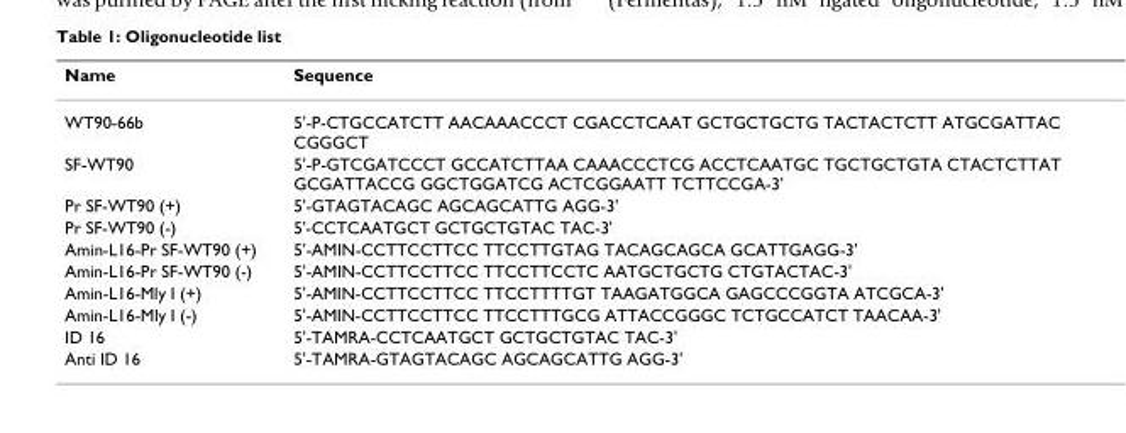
<table><thead><tr><td>Name</td><td>Sequence</td></tr></thead><tbody><tr><td>WT90-66b</td><td>5&#x27;-P-CTGCCATCTT AACAAACCCT CGACCTCAAT GCTGCTGCTG TACTACTCTT ATGCGATTAC CGGGCT</td></tr><tr><td>SF-WT90</td><td>5&#x27;-P-GTCGATCCCT GCCATCTTAA CAAACCCTCG ACCTCAATGC TGCTGCTGTA CTACTCTTAT GCGATTACCG GGCTGGATCG ACTCGGAATT TCTTCCGA-3&#x27;</td></tr><tr><td>Pr SF-WT90 (+)</td><td>5&#x27;-GTAGTACAGC AGCAGCATTG AGG-3&#x27;</td></tr><tr><td>Pr SF-WT90 (-)</td><td>5&#x27;-CCTCAATGCT GCTGCTGTAC TAC-3&#x27;</td></tr><tr><td>Amin-L16-Pr SF-WT90 (+)</td><td>5&#x27;-AMIN-CCTTCCTTCC TTCCTTGTAG TACAGCAGCA GCATTGAGG-3&#x27;</td></tr><tr><td>Amin-L16-Pr SF-WT90 (-)</td><td>5&#x27;-AMIN-CCTTCCTTCC TTCCTTCCTC AATGCTGCTG CTGTACTAC-3&#x27;</td></tr><tr><td>Amin-L16-Mly I (+)</td><td>5&#x27;-AMIN-CCTTCCTTCC TTCCTTTTGT TAAGATGGCA GAGCCCGGTA ATCGCA-3&#x27;</td></tr><tr><td>Amin-L16-Mly I (-)</td><td>5&#x27;-AMIN-CCTTCCTTCC TTCCTTTGCG ATTACCGGGC TCTGCCATCT TAACAA-3&#x27;</td></tr><tr><td>ID 16</td><td>5&#x27;-TAMRA-CCTCAATGCT GCTGCTGTAC TAC-3&#x27;</td></tr><tr><td>Anti ID 16</td><td>5&#x27;-TAMRA-GTAGTACAGC AGCAGCATTG AGG-3&#x27;</td></tr></tbody></table>